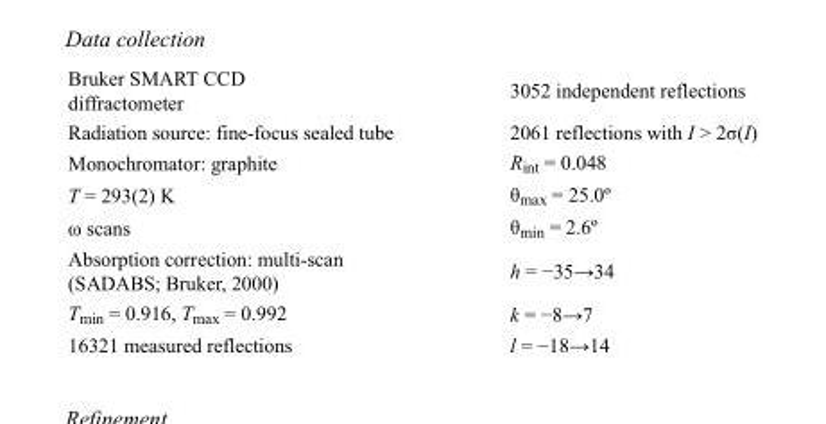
<table><tbody><tr><td>Bruker SMART CCD diffractometer</td><td>3052 independent reflections</td></tr><tr><td>Radiation source: fine-focus sealed tube</td><td>2061 reflections with I &gt; 2σ(I)</td></tr><tr><td>Monochromator: graphite</td><td>R<sub>int</sub> = 0.048</td></tr><tr><td>T = 293(2) K</td><td>θ<sub>max</sub> = 25.0º</td></tr><tr><td>ω scans</td><td>θ<sub>min</sub> = 2.6º</td></tr><tr><td>Absorption correction: multi-scan (SADABS; Bruker, 2000)</td><td>h = −35→34</td></tr><tr><td>T<sub>min</sub> = 0.916, T<sub>max</sub> = 0.992</td><td>k = −8→7</td></tr><tr><td>16321 measured reflections</td><td>l = −18→14</td></tr></tbody></table>